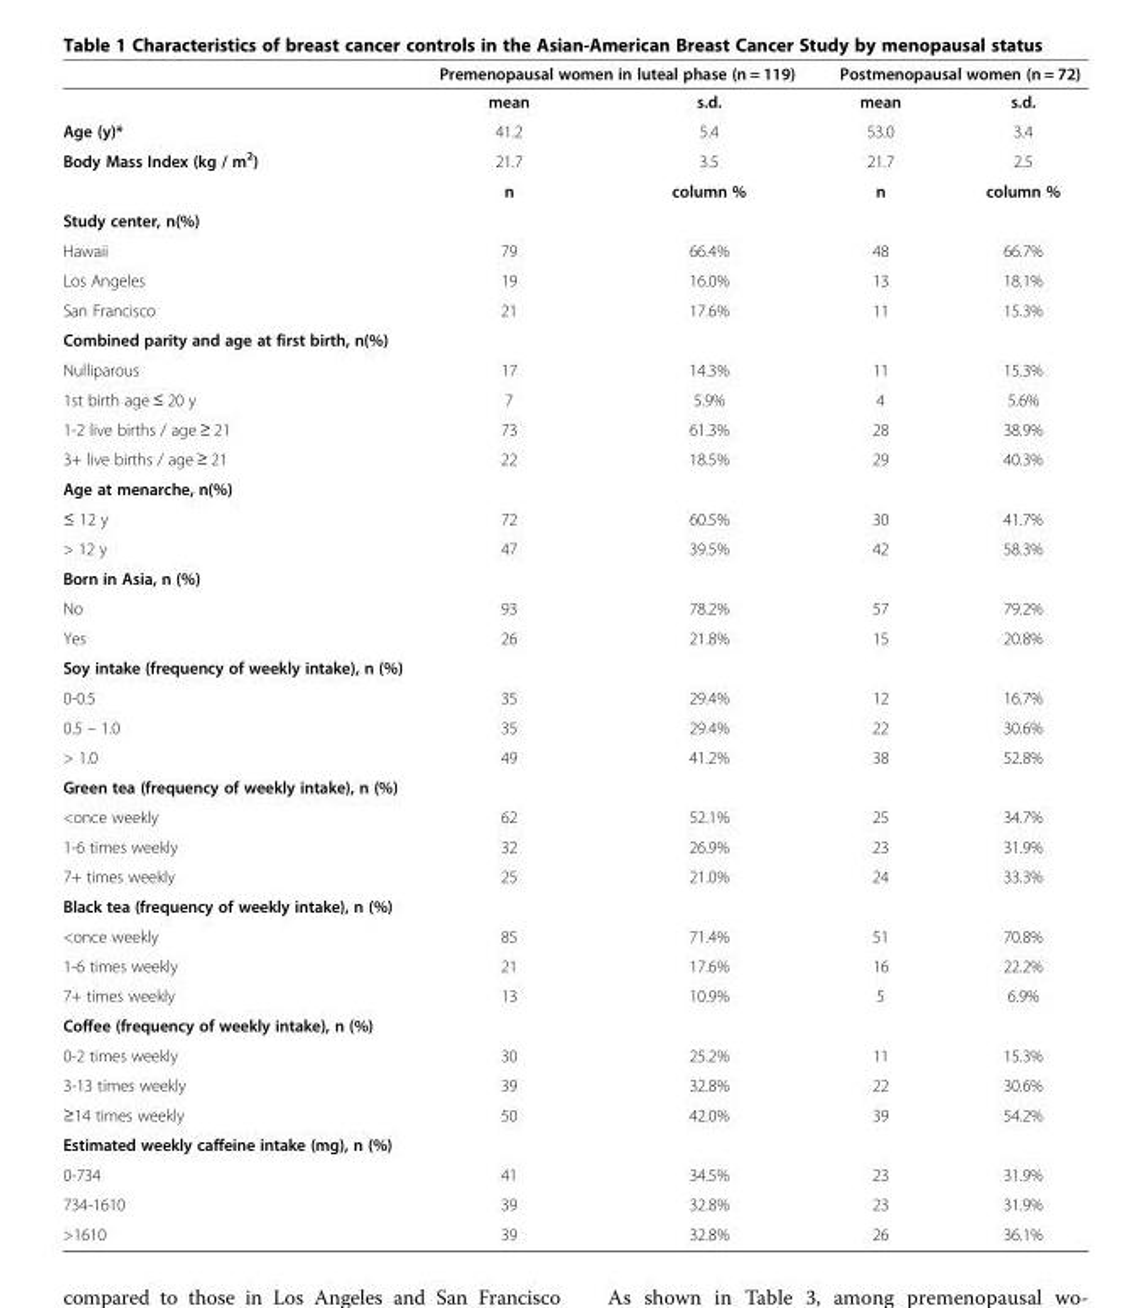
<table><thead><tr><td rowspan="2"></td><td colspan="2">Premenopausal women in luteal phase (n = 119)</td><td colspan="2">Postmenopausal women (n = 72)</td></tr><tr><td>mean</td><td>s.d.</td><td>mean</td><td>s.d.</td></tr></thead><tbody><tr><td>Age (y)*</td><td>41.2</td><td>5.4</td><td>53.0</td><td>3.4</td></tr><tr><td rowspan="2">Body Mass Index (kg / m<sup>2</sup>)</td><td>21.7</td><td>3.5</td><td>21.7</td><td>2.5</td></tr><tr><td>n</td><td>column %</td><td>n</td><td>column %</td></tr><tr><td colspan="5">Study center, n(%)</td></tr><tr><td>Hawaii</td><td>79</td><td>66.4%</td><td>48</td><td>66.7%</td></tr><tr><td>Los Angeles</td><td>19</td><td>16.0%</td><td>13</td><td>18.1%</td></tr><tr><td>San Francisco</td><td>21</td><td>17.6%</td><td>11</td><td>15.3%</td></tr><tr><td colspan="5">Combined parity and age at first birth, n(%)</td></tr><tr><td>Nulliparous</td><td>17</td><td>14.3%</td><td>11</td><td>15.3%</td></tr><tr><td>1st birth age ≤ 20 y</td><td>7</td><td>5.9%</td><td>4</td><td>5.6%</td></tr><tr><td>1-2 live births / age ≥ 21</td><td>73</td><td>61.3%</td><td>28</td><td>38.9%</td></tr><tr><td>3+ live births / age ≥ 21</td><td>22</td><td>18.5%</td><td>29</td><td>40.3%</td></tr><tr><td colspan="5">Age at menarche, n(%)</td></tr><tr><td>≤ 12 y</td><td>72</td><td>60.5%</td><td>30</td><td>41.7%</td></tr><tr><td>&gt; 12 y</td><td>47</td><td>39.5%</td><td>42</td><td>58.3%</td></tr><tr><td colspan="5">Born in Asia, n (%)</td></tr><tr><td>No</td><td>93</td><td>78.2%</td><td>57</td><td>79.2%</td></tr><tr><td>Yes</td><td>26</td><td>21.8%</td><td>15</td><td>20.8%</td></tr><tr><td colspan="5">Soy intake (frequency of weekly intake), n (%)</td></tr><tr><td>0-0.5</td><td>35</td><td>29.4%</td><td>12</td><td>16.7%</td></tr><tr><td>0.5 – 1.0</td><td>35</td><td>29.4%</td><td>22</td><td>30.6%</td></tr><tr><td>&gt; 1.0</td><td>49</td><td>41.2%</td><td>38</td><td>52.8%</td></tr><tr><td colspan="5">Green tea (frequency of weekly intake), n (%)</td></tr><tr><td>&lt;once weekly</td><td>62</td><td>52.1%</td><td>25</td><td>34.7%</td></tr><tr><td>1-6 times weekly</td><td>32</td><td>26.9%</td><td>23</td><td>31.9%</td></tr><tr><td>7+ times weekly</td><td>25</td><td>21.0%</td><td>24</td><td>33.3%</td></tr><tr><td colspan="5">Black tea (frequency of weekly intake), n (%)</td></tr><tr><td>&lt;once weekly</td><td>85</td><td>71.4%</td><td>51</td><td>70.8%</td></tr><tr><td>1-6 times weekly</td><td>21</td><td>17.6%</td><td>16</td><td>22.2%</td></tr><tr><td>7+ times weekly</td><td>13</td><td>10.9%</td><td>5</td><td>6.9%</td></tr><tr><td colspan="5">Coffee (frequency of weekly intake), n (%)</td></tr><tr><td>0-2 times weekly</td><td>30</td><td>25.2%</td><td>11</td><td>15.3%</td></tr><tr><td>3-13 times weekly</td><td>39</td><td>32.8%</td><td>22</td><td>30.6%</td></tr><tr><td>≥14 times weekly</td><td>50</td><td>42.0%</td><td>39</td><td>54.2%</td></tr><tr><td colspan="5">Estimated weekly caffeine intake (mg), n (%)</td></tr><tr><td>0-734</td><td>41</td><td>34.5%</td><td>23</td><td>31.9%</td></tr><tr><td>734-1610</td><td>39</td><td>32.8%</td><td>23</td><td>31.9%</td></tr><tr><td>&gt;1610</td><td>39</td><td>32.8%</td><td>26</td><td>36.1%</td></tr></tbody></table>